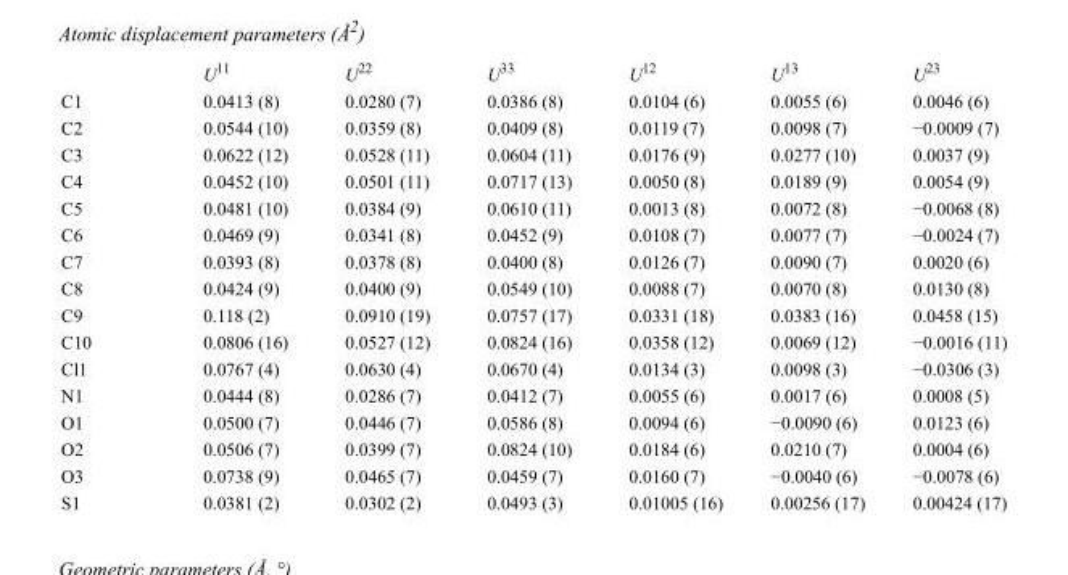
<table><thead><tr><td></td><td>U<sup>11</sup></td><td>U<sup>22</sup></td><td>U<sup>33</sup></td><td>U<sup>12</sup></td><td>U<sup>13</sup></td><td>U<sup>23</sup></td></tr></thead><tbody><tr><td>C1</td><td>0.0413 (8)</td><td>0.0280 (7)</td><td>0.0386 (8)</td><td>0.0104 (6)</td><td>0.0055 (6)</td><td>0.0046 (6)</td></tr><tr><td>C2</td><td>0.0544 (10)</td><td>0.0359 (8)</td><td>0.0409 (8)</td><td>0.0119 (7)</td><td>0.0098 (7)</td><td>−0.0009 (7)</td></tr><tr><td>C3</td><td>0.0622 (12)</td><td>0.0528 (11)</td><td>0.0604 (11)</td><td>0.0176 (9)</td><td>0.0277 (10)</td><td>0.0037 (9)</td></tr><tr><td>C4</td><td>0.0452 (10)</td><td>0.0501 (11)</td><td>0.0717 (13)</td><td>0.0050 (8)</td><td>0.0189 (9)</td><td>0.0054 (9)</td></tr><tr><td>C5</td><td>0.0481 (10)</td><td>0.0384 (9)</td><td>0.0610 (11)</td><td>0.0013 (8)</td><td>0.0072 (8)</td><td>−0.0068 (8)</td></tr><tr><td>C6</td><td>0.0469 (9)</td><td>0.0341 (8)</td><td>0.0452 (9)</td><td>0.0108 (7)</td><td>0.0077 (7)</td><td>−0.0024 (7)</td></tr><tr><td>C7</td><td>0.0393 (8)</td><td>0.0378 (8)</td><td>0.0400 (8)</td><td>0.0126 (7)</td><td>0.0090 (7)</td><td>0.0020 (6)</td></tr><tr><td>C8</td><td>0.0424 (9)</td><td>0.0400 (9)</td><td>0.0549 (10)</td><td>0.0088 (7)</td><td>0.0070 (8)</td><td>0.0130 (8)</td></tr><tr><td>C9</td><td>0.118 (2)</td><td>0.0910 (19)</td><td>0.0757 (17)</td><td>0.0331 (18)</td><td>0.0383 (16)</td><td>0.0458 (15)</td></tr><tr><td>C10</td><td>0.0806 (16)</td><td>0.0527 (12)</td><td>0.0824 (16)</td><td>0.0358 (12)</td><td>0.0069 (12)</td><td>−0.0016 (11)</td></tr><tr><td>Cl1</td><td>0.0767 (4)</td><td>0.0630 (4)</td><td>0.0670 (4)</td><td>0.0134 (3)</td><td>0.0098 (3)</td><td>−0.0306 (3)</td></tr><tr><td>N1</td><td>0.0444 (8)</td><td>0.0286 (7)</td><td>0.0412 (7)</td><td>0.0055 (6)</td><td>0.0017 (6)</td><td>0.0008 (5)</td></tr><tr><td>O1</td><td>0.0500 (7)</td><td>0.0446 (7)</td><td>0.0586 (8)</td><td>0.0094 (6)</td><td>−0.0090 (6)</td><td>0.0123 (6)</td></tr><tr><td>O2</td><td>0.0506 (7)</td><td>0.0399 (7)</td><td>0.0824 (10)</td><td>0.0184 (6)</td><td>0.0210 (7)</td><td>0.0004 (6)</td></tr><tr><td>O3</td><td>0.0738 (9)</td><td>0.0465 (7)</td><td>0.0459 (7)</td><td>0.0160 (7)</td><td>−0.0040 (6)</td><td>−0.0078 (6)</td></tr><tr><td>S1</td><td>0.0381 (2)</td><td>0.0302 (2)</td><td>0.0493 (3)</td><td>0.01005 (16)</td><td>0.00256 (17)</td><td>0.00424 (17)</td></tr></tbody></table>